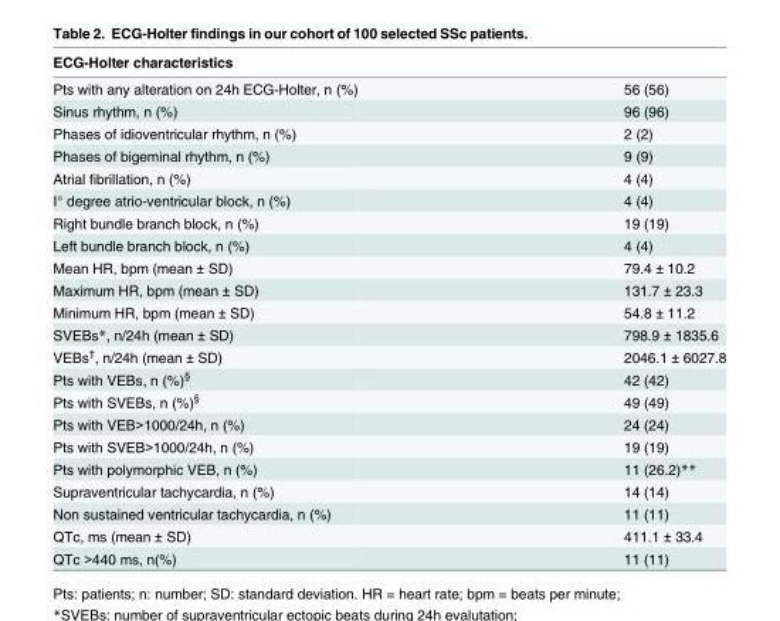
<table><thead><tr><td>ECG-Holter characteristics</td><td></td></tr></thead><tbody><tr><td>Pts with any alteration on 24h ECG-Holter, n (%)</td><td>56 (56)</td></tr><tr><td>Sinus rhythm, n (%)</td><td>96 (96)</td></tr><tr><td>Phases of idioventricular rhythm, n (%)</td><td>2 (2)</td></tr><tr><td>Phases of bigeminal rhythm, n (%)</td><td>9 (9)</td></tr><tr><td>Atrial fibrillation, n (%)</td><td>4 (4)</td></tr><tr><td>I° degree atrio-ventricular block, n (%)</td><td>4 (4)</td></tr><tr><td>Right bundle branch block, n (%)</td><td>19 (19)</td></tr><tr><td>Left bundle branch block, n (%)</td><td>4 (4)</td></tr><tr><td>Mean HR, bpm (mean ± SD)</td><td>79.4 ± 10.2</td></tr><tr><td>Maximum HR, bpm (mean ± SD)</td><td>131.7 ± 23.3</td></tr><tr><td>Minimum HR, bpm (mean ± SD)</td><td>54.8 ± 11.2</td></tr><tr><td>SVEBs*, n/24h (mean ± SD)</td><td>798.9 ± 1835.6</td></tr><tr><td>VEBs<sup>†</sup>, n/24h (mean ± SD)</td><td>2046.1 ± 6027.8</td></tr><tr><td>Pts with VEBs, n (%)<sup>§</sup></td><td>42 (42)</td></tr><tr><td>Pts with SVEBs, n (%)<sup>§</sup></td><td>49 (49)</td></tr><tr><td>Pts with VEB&gt;1000/24h, n (%)</td><td>24 (24)</td></tr><tr><td>Pts with SVEB&gt;1000/24h, n (%)</td><td>19 (19)</td></tr><tr><td>Pts with polymorphic VEB, n (%)</td><td>11 (26.2)**</td></tr><tr><td>Supraventricular tachycardia, n (%)</td><td>14 (14)</td></tr><tr><td>Non sustained ventricular tachycardia, n (%)</td><td>11 (11)</td></tr><tr><td>QTc, ms (mean ± SD)</td><td>411.1 ± 33.4</td></tr><tr><td>QTc &gt;440 ms, n(%)</td><td>11 (11)</td></tr></tbody></table>